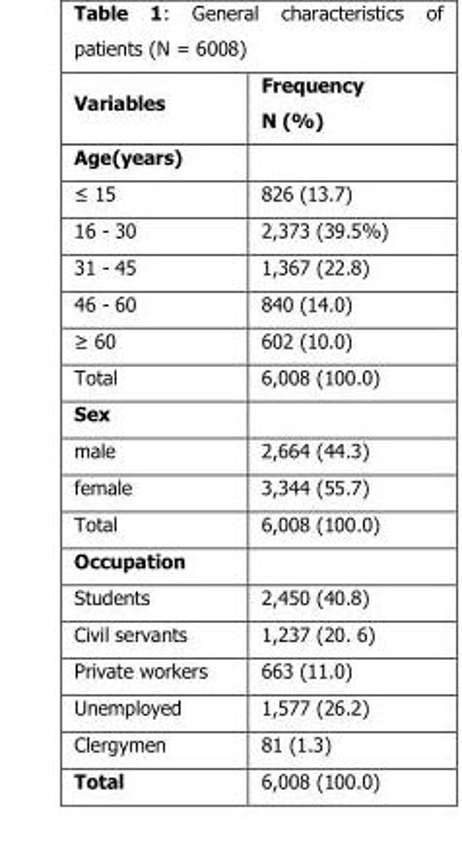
<table><thead><tr><td>Variables</td><td>Frequency N (%)</td></tr></thead><tbody><tr><td colspan="2">Age(years)</td></tr><tr><td>≤ 15</td><td>826 (13.7)</td></tr><tr><td>16 - 30</td><td>2,373 (39.5%)</td></tr><tr><td>31 - 45</td><td>1,367 (22.8)</td></tr><tr><td>46 - 60</td><td>840 (14.0)</td></tr><tr><td>≥ 60</td><td>602 (10.0)</td></tr><tr><td>Total</td><td>6,008 (100.0)</td></tr><tr><td colspan="2">Sex</td></tr><tr><td>male</td><td>2,664 (44.3)</td></tr><tr><td>female</td><td>3,344 (55.7)</td></tr><tr><td>Total</td><td>6,008 (100.0)</td></tr><tr><td colspan="2">Occupation</td></tr><tr><td>Students</td><td>2,450 (40.8)</td></tr><tr><td>Civil servants</td><td>1,237 (20. 6)</td></tr><tr><td>Private workers</td><td>663 (11.0)</td></tr><tr><td>Unemployed</td><td>1,577 (26.2)</td></tr><tr><td>Clergymen</td><td>81 (1.3)</td></tr><tr><td>Total</td><td>6,008 (100.0)</td></tr></tbody></table>